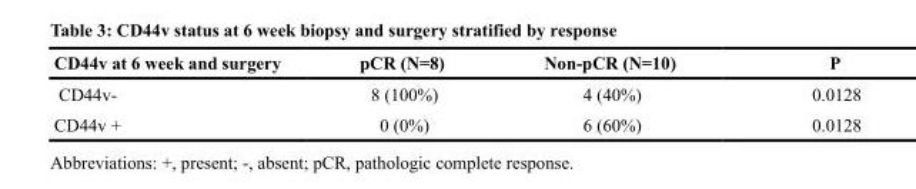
<table><thead><tr><td>CD44v at 6 week and surgery</td><td>pCR (N=8)</td><td>Non-pCR (N=10)</td><td>P</td></tr></thead><tbody><tr><td>CD44v-</td><td>8 (100%)</td><td>4 (40%)</td><td>0.0128</td></tr><tr><td>CD44v +</td><td>0 (0%)</td><td>6 (60%)</td><td>0.0128</td></tr></tbody></table>